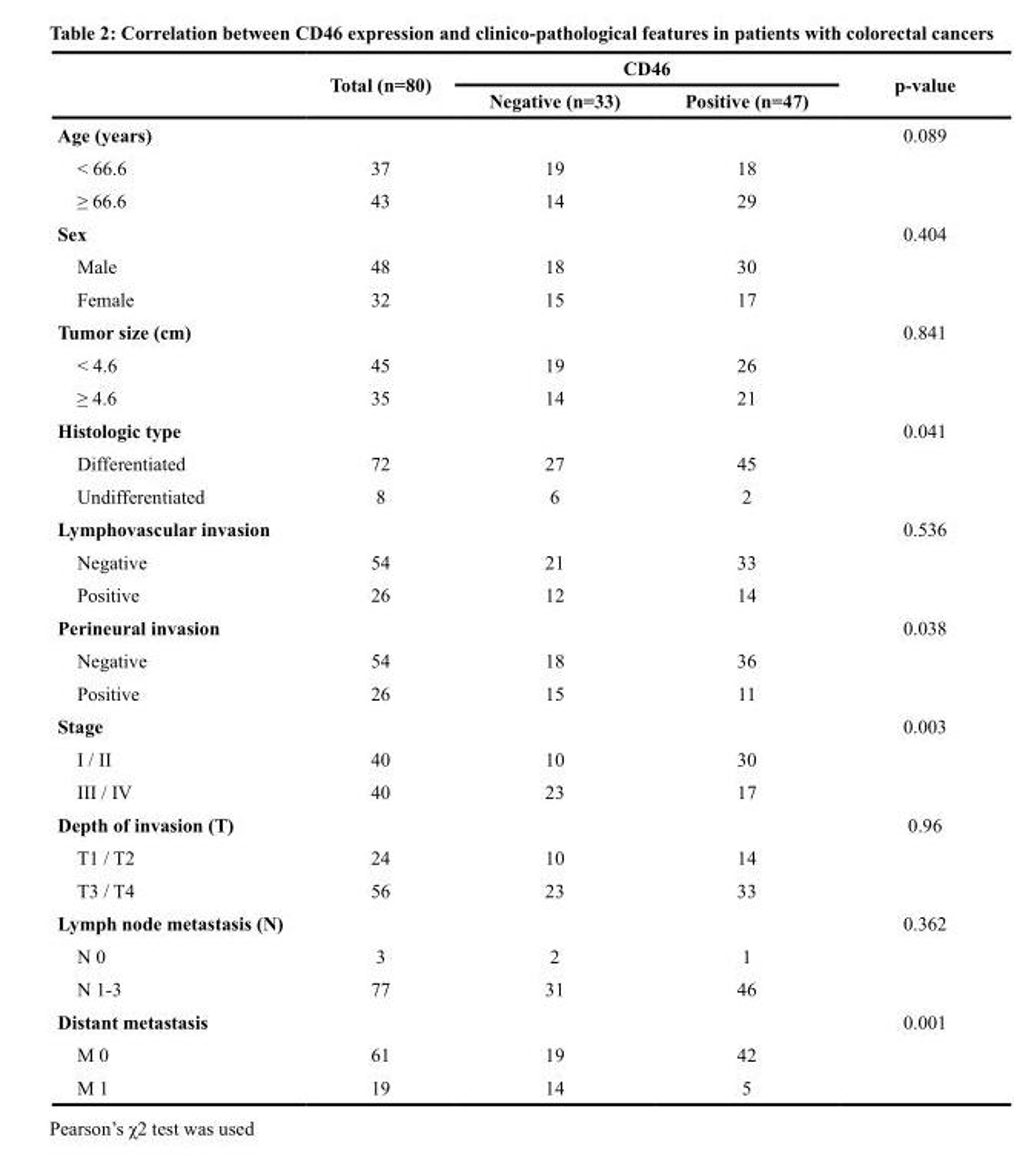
<table><thead><tr><td rowspan="2"></td><td rowspan="2">Total (n=80)</td><td colspan="2">CD46</td><td rowspan="2">p-value</td></tr><tr><td>Negative (n=33)</td><td>Positive (n=47)</td></tr></thead><tbody><tr><td>Age (years)</td><td></td><td></td><td></td><td>0.089</td></tr><tr><td>&lt; 66.6</td><td>37</td><td>19</td><td>18</td><td></td></tr><tr><td>≥ 66.6</td><td>43</td><td>14</td><td>29</td><td></td></tr><tr><td>Sex</td><td></td><td></td><td></td><td>0.404</td></tr><tr><td>Male</td><td>48</td><td>18</td><td>30</td><td></td></tr><tr><td>Female</td><td>32</td><td>15</td><td>17</td><td></td></tr><tr><td>Tumor size (cm)</td><td></td><td></td><td></td><td>0.841</td></tr><tr><td>&lt; 4.6</td><td>45</td><td>19</td><td>26</td><td></td></tr><tr><td>≥ 4.6</td><td>35</td><td>14</td><td>21</td><td></td></tr><tr><td>Histologic type</td><td></td><td></td><td></td><td>0.041</td></tr><tr><td>Differentiated</td><td>72</td><td>27</td><td>45</td><td></td></tr><tr><td>Undifferentiated</td><td>8</td><td>6</td><td>2</td><td></td></tr><tr><td>Lymphovascular invasion</td><td></td><td></td><td></td><td>0.536</td></tr><tr><td>Negative</td><td>54</td><td>21</td><td>33</td><td></td></tr><tr><td>Positive</td><td>26</td><td>12</td><td>14</td><td></td></tr><tr><td>Perineural invasion</td><td></td><td></td><td></td><td>0.038</td></tr><tr><td>Negative</td><td>54</td><td>18</td><td>36</td><td></td></tr><tr><td>Positive</td><td>26</td><td>15</td><td>11</td><td></td></tr><tr><td>Stage</td><td></td><td></td><td></td><td>0.003</td></tr><tr><td>I / II</td><td>40</td><td>10</td><td>30</td><td></td></tr><tr><td>III / IV</td><td>40</td><td>23</td><td>17</td><td></td></tr><tr><td>Depth of invasion (T)</td><td></td><td></td><td></td><td>0.96</td></tr><tr><td>T1 / T2</td><td>24</td><td>10</td><td>14</td><td></td></tr><tr><td>T3 / T4</td><td>56</td><td>23</td><td>33</td><td></td></tr><tr><td>Lymph node metastasis (N)</td><td></td><td></td><td></td><td>0.362</td></tr><tr><td>N 0</td><td>3</td><td>2</td><td>1</td><td></td></tr><tr><td>N 1-3</td><td>77</td><td>31</td><td>46</td><td></td></tr><tr><td>Distant metastasis</td><td></td><td></td><td></td><td>0.001</td></tr><tr><td>M 0</td><td>61</td><td>19</td><td>42</td><td></td></tr><tr><td>M 1</td><td>19</td><td>14</td><td>5</td><td></td></tr></tbody></table>